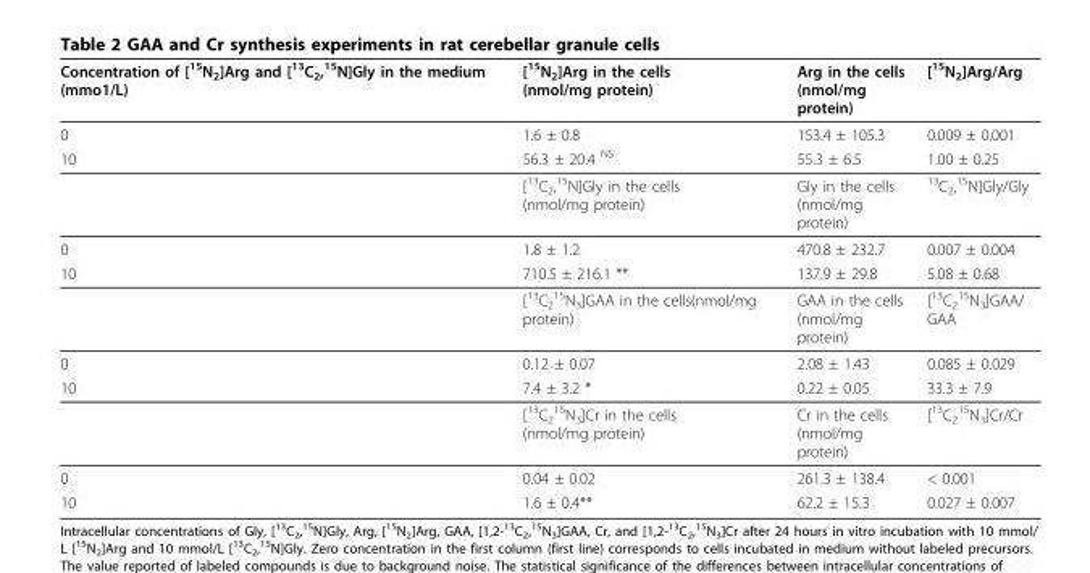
<table><thead><tr><td>Concentration of [<sup>15</sup>N<sub>2</sub>]Arg and [<sup>13</sup>C<sub>2</sub>,<sup>15</sup>N]Gly in the medium (mmo1/L)</td><td>[<sup>15</sup>N<sub>2</sub>]Arg in the cells (nmol/mg protein)</td><td>Arg in the cells (nmol/mg protein)</td><td>[<sup>15</sup>N<sub>2</sub>]Arg/Arg</td></tr></thead><tbody><tr><td>0</td><td>1.6 ± 0.8</td><td>153.4 ± 105.3</td><td>0.009 ± 0.001</td></tr><tr><td rowspan="2">10</td><td>56.3 ± 20.4 <sup>NS</sup></td><td>55.3 ± 6.5</td><td>1.00 ± 0.25</td></tr><tr><td>[<sup>13</sup>C<sub>2</sub>,<sup>15</sup>N]Gly in the cells (nmol/mg protein)</td><td>Gly in the cells (nmol/mg protein)</td><td><sup>13</sup>C<sub>2</sub>,<sup>15</sup>N]Gly/Gly</td></tr><tr><td>0</td><td>1.8 ± 1.2</td><td>470.8 ± 232.7</td><td>0.007 ± 0.004</td></tr><tr><td rowspan="2">10</td><td>710.5 ± 216.1 **</td><td>137.9 ± 29.8</td><td>5.08 ± 0.68</td></tr><tr><td>[<sup>13</sup>C<sub>2</sub> <sup>15</sup>N<sub>3</sub>]GAA in the cells(nmol/mg protein)</td><td>GAA in the cells (nmol/mg protein)</td><td>[<sup>13</sup>C<sub>2</sub> <sup>15</sup>N<sub>3</sub>]GAA/ GAA</td></tr><tr><td>0</td><td>0.12 ± 0.07</td><td>2.08 ± 1.43</td><td>0.085 ± 0.029</td></tr><tr><td rowspan="2">10</td><td>7.4 ± 3.2 *</td><td>0.22 ± 0.05</td><td>33.3 ± 7.9</td></tr><tr><td>[<sup>13</sup>C<sub>2</sub> <sup>15</sup>N<sub>3</sub>]Cr in the cells (nmol/mg protein)</td><td>Cr in the cells (nmol/mg protein)</td><td>[<sup>13</sup>C<sub>2</sub> <sup>15</sup>N<sub>3</sub>]Cr/Cr</td></tr><tr><td>0</td><td>0.04 ± 0.02</td><td>261.3 ± 138.4</td><td>&lt; 0.001</td></tr><tr><td>10</td><td>1.6 ± 0.4**</td><td>62.2 ± 15.3</td><td>0.027 ± 0.007</td></tr></tbody></table>